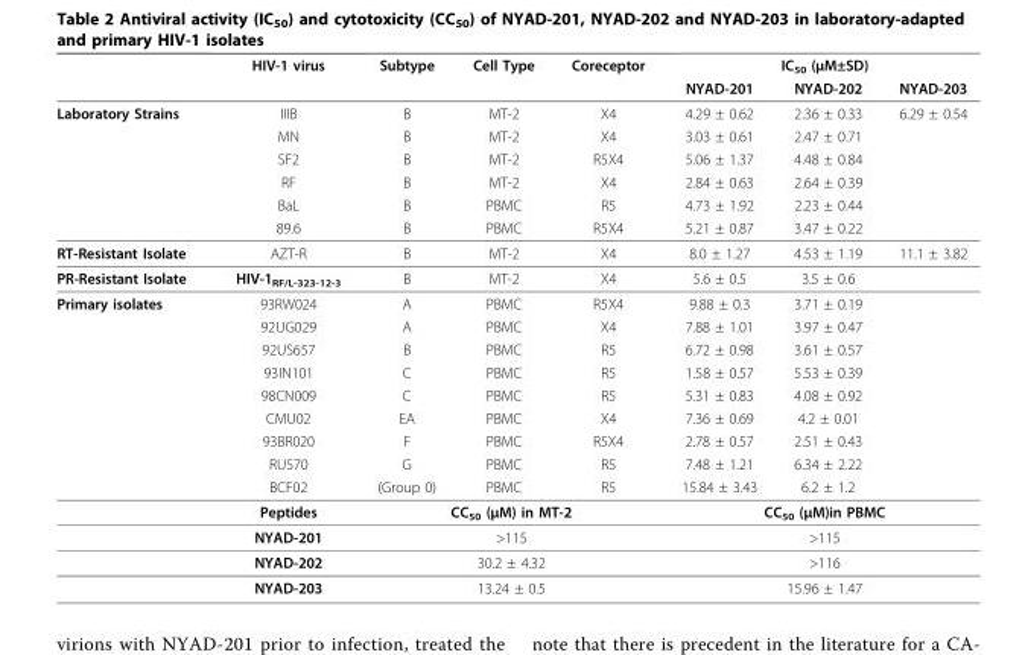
<table><thead><tr><td rowspan="2"></td><td rowspan="2">HIV-1 virus</td><td rowspan="2">Subtype</td><td rowspan="2">Cell Type</td><td rowspan="2">Coreceptor</td><td colspan="3">IC<sub>50</sub> (μM±SD)</td></tr><tr><td>NYAD-201</td><td>NYAD-202</td><td>NYAD-203</td></tr></thead><tbody><tr><td rowspan="6">Laboratory Strains</td><td>IIIB</td><td>B</td><td>MT-2</td><td>X4</td><td>4.29 ± 0.62</td><td>2.36 ± 0.33</td><td>6.29 ± 0.54</td></tr><tr><td>MN</td><td>B</td><td>MT-2</td><td>X4</td><td>3.03 ± 0.61</td><td>2.47 ± 0.71</td><td></td></tr><tr><td>SF2</td><td>B</td><td>MT-2</td><td>R5X4</td><td>5.06 ± 1.37</td><td>4.48 ± 0.84</td><td></td></tr><tr><td>RF</td><td>B</td><td>MT-2</td><td>X4</td><td>2.84 ± 0.63</td><td>2.64 ± 0.39</td><td></td></tr><tr><td>BaL</td><td>B</td><td>PBMC</td><td>R5</td><td>4.73 ± 1.92</td><td>2.23 ± 0.44</td><td></td></tr><tr><td>89.6</td><td>B</td><td>PBMC</td><td>R5X4</td><td>5.21 ± 0.87</td><td>3.47 ± 0.22</td><td></td></tr><tr><td>RT-Resistant Isolate</td><td>AZT-R</td><td>B</td><td>MT-2</td><td>X4</td><td>8.0 ± 1.27</td><td>4.53 ± 1.19</td><td>11.1 ± 3.82</td></tr><tr><td>PR-Resistant Isolate</td><td>HIV-1<sub>RF/L-323-12-3</sub></td><td>B</td><td>MT-2</td><td>X4</td><td>5.6 ± 0.5</td><td>3.5 ± 0.6</td><td></td></tr><tr><td rowspan="13">Primary isolates</td><td>93RW024</td><td>A</td><td>PBMC</td><td>R5X4</td><td>9.88 ± 0.3</td><td>3.71 ± 0.19</td><td></td></tr><tr><td>92UG029</td><td>A</td><td>PBMC</td><td>X4</td><td>7.88 ± 1.01</td><td>3.97 ± 0.47</td><td></td></tr><tr><td>92US657</td><td>B</td><td>PBMC</td><td>R5</td><td>6.72 ± 0.98</td><td>3.61 ± 0.57</td><td></td></tr><tr><td>93IN101</td><td>C</td><td>PBMC</td><td>R5</td><td>1.58 ± 0.57</td><td>5.53 ± 0.39</td><td></td></tr><tr><td>98CN009</td><td>C</td><td>PBMC</td><td>R5</td><td>5.31 ± 0.83</td><td>4.08 ± 0.92</td><td></td></tr><tr><td>CMU02</td><td>EA</td><td>PBMC</td><td>X4</td><td>7.36 ± 0.69</td><td>4.2 ± 0.01</td><td></td></tr><tr><td>93BR020</td><td>F</td><td>PBMC</td><td>R5X4</td><td>2.78 ± 0.57</td><td>2.51 ± 0.43</td><td></td></tr><tr><td>RU570</td><td>G</td><td>PBMC</td><td>R5</td><td>7.48 ± 1.21</td><td>6.34 ± 2.22</td><td></td></tr><tr><td>BCF02</td><td>(Group 0)</td><td>PBMC</td><td>R5</td><td>15.84 ± 3.43</td><td>6.2 ± 1.2</td><td></td></tr><tr><td>Peptides</td><td colspan="3">CC<sub>50</sub> (μM) in MT-2</td><td colspan="3">CC<sub>50</sub> (μM)in PBMC</td></tr><tr><td>NYAD-201</td><td colspan="3">&gt;115</td><td colspan="3">&gt;115</td></tr><tr><td>NYAD-202</td><td colspan="3">30.2 ± 4.32</td><td colspan="3">&gt;116</td></tr><tr><td>NYAD-203</td><td colspan="3">13.24 ± 0.5</td><td colspan="3">15.96 ± 1.47</td></tr></tbody></table>